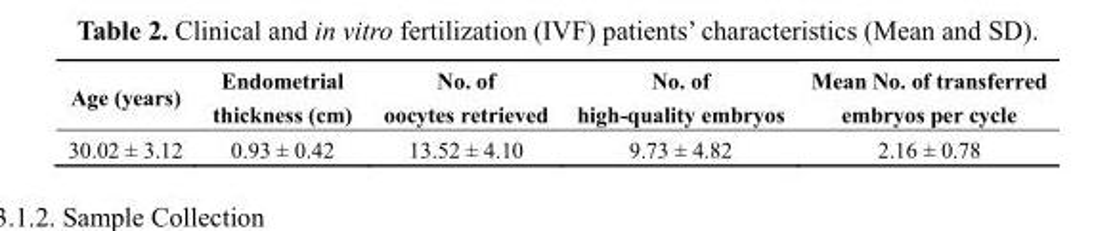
<table><thead><tr><td>Age (years)</td><td>Endometrial thickness (cm)</td><td>No. of oocytes retrieved</td><td>No. of high-quality embryos</td><td>Mean No. of transferred embryos per cycle</td></tr></thead><tbody><tr><td>30.02 ± 3.12</td><td>0.93 ± 0.42</td><td>13.52 ± 4.10</td><td>9.73 ± 4.82</td><td>2.16 ± 0.78</td></tr></tbody></table>